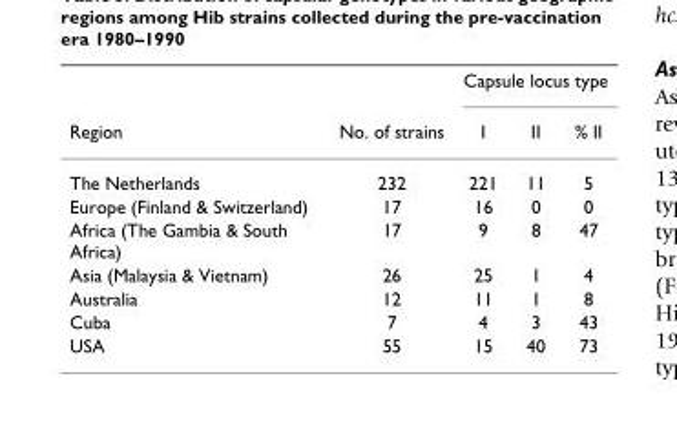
<table><thead><tr><td rowspan="2">Region</td><td rowspan="2">No. of strains</td><td colspan="3">Capsule locus type</td></tr><tr><td>I</td><td>II</td><td>% II</td></tr></thead><tbody><tr><td>The Netherlands</td><td>232</td><td>221</td><td>11</td><td>5</td></tr><tr><td>Europe (Finland &amp; Switzerland)</td><td>17</td><td>16</td><td>0</td><td>0</td></tr><tr><td>Africa (The Gambia &amp; South Africa)</td><td>17</td><td>9</td><td>8</td><td>47</td></tr><tr><td>Asia (Malaysia &amp; Vietnam)</td><td>26</td><td>25</td><td>1</td><td>4</td></tr><tr><td>Australia</td><td>12</td><td>11</td><td>1</td><td>8</td></tr><tr><td>Cuba</td><td>7</td><td>4</td><td>3</td><td>43</td></tr><tr><td>USA</td><td>55</td><td>15</td><td>40</td><td>73</td></tr></tbody></table>